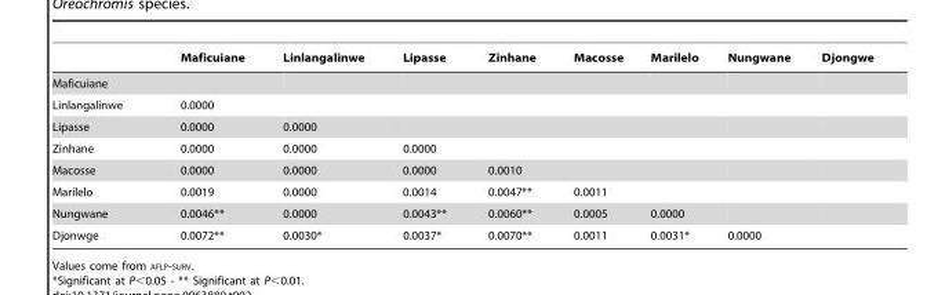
<table><thead><tr><td></td><td>Maficuiane</td><td>Linlangalinwe</td><td>Lipasse</td><td>Zinhane</td><td>Macosse</td><td>Marilelo</td><td>Nungwane</td><td>Djongwe</td></tr></thead><tbody><tr><td colspan="9">Maficuiane</td></tr><tr><td>Linlangalinwe</td><td>0.0000</td><td></td><td></td><td></td><td></td><td></td><td></td><td></td></tr><tr><td>Lipasse</td><td>0.0000</td><td>0.0000</td><td></td><td></td><td></td><td></td><td></td><td></td></tr><tr><td>Zinhane</td><td>0.0000</td><td>0.0000</td><td>0.0000</td><td></td><td></td><td></td><td></td><td></td></tr><tr><td>Macosse</td><td>0.0000</td><td>0.0000</td><td>0.0000</td><td>0.0010</td><td></td><td></td><td></td><td></td></tr><tr><td>Marilelo</td><td>0.0019</td><td>0.0000</td><td>0.0014</td><td>0.0047**</td><td>0.0011</td><td></td><td></td><td></td></tr><tr><td>Nungwane</td><td>0.0046**</td><td>0.0000</td><td>0.0043**</td><td>0.0060**</td><td>0.0005</td><td>0.0000</td><td></td><td></td></tr><tr><td>Djonwge</td><td>0.0072**</td><td>0.0030*</td><td>0.0037*</td><td>0.0070**</td><td>0.0011</td><td>0.0031*</td><td>0.0000</td><td></td></tr></tbody></table>